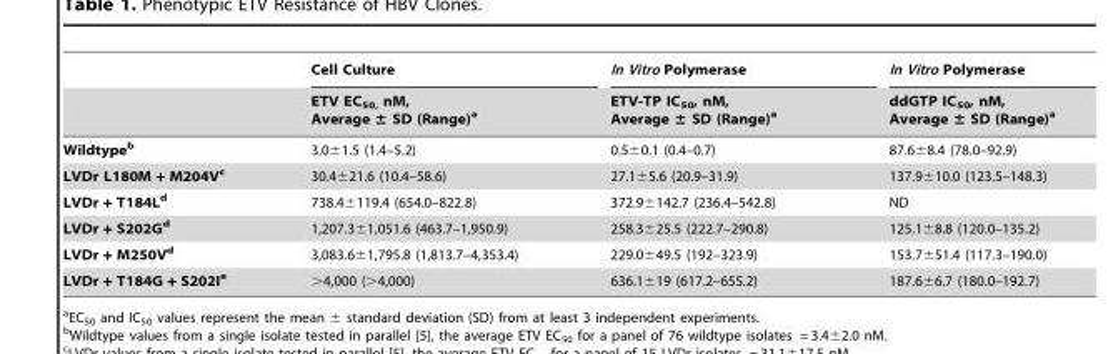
<table><thead><tr><td rowspan="2"></td><td rowspan="2">Cell Culture ETV EC<sub>50,</sub> nM, Average ± SD (Range)<sup>a</sup></td><td rowspan="2">In Vitro Polymerase ETV-TP IC<sub>50</sub>, nM, Average ± SD (Range)<sup>a</sup></td><td rowspan="2">In Vitro Polymerase ddGTP IC<sub>50</sub>, nM, Average ± SD (Range)<sup>a</sup></td></tr><tr></tr></thead><tbody><tr><td>Wildtypeb</td><td>3.0±1.5 (1.4–5.2)</td><td>0.5±0.1 (0.4–0.7)</td><td>87.6±8.4 (78.0–92.9)</td></tr><tr><td>LVDr L180M + M204Vc</td><td>30.4±21.6 (10.4–58.6)</td><td>27.1±5.6 (20.9–31.9)</td><td>137.9±10.0 (123.5–148.3)</td></tr><tr><td>LVDr + T184Ld</td><td>738.4±119.4 (654.0–822.8)</td><td>372.9±142.7 (236.4–542.8)</td><td>ND</td></tr><tr><td>LVDr + S202Gd</td><td>1,207.3±1,051.6 (463.7–1,950.9)</td><td>258.3±25.5 (222.7–290.8)</td><td>125.1±8.8 (120.0–135.2)</td></tr><tr><td>LVDr + M250Vd</td><td>3,083.6±1,795.8 (1,813.7–4,353.4)</td><td>229.0±49.5 (192–323.9)</td><td>153.7±51.4 (117.3–190.0)</td></tr><tr><td>LVDr + T184G + S202Ie</td><td>&gt;4,000 (&gt;4,000)</td><td>636.1±19 (617.2–655.2)</td><td>187.6±6.7 (180.0–192.7)</td></tr></tbody></table>